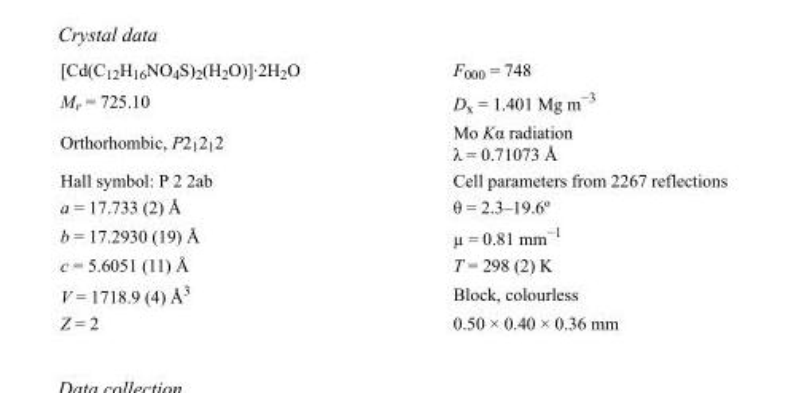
<table><tbody><tr><td>[Cd(C<sub>12</sub>H<sub>16</sub>NO<sub>4</sub>S)<sub>2</sub>(H<sub>2</sub>O)]·2H<sub>2</sub>O</td><td>F000 = 748</td></tr><tr><td>M<sub>r</sub> = 725.10</td><td>D<sub>x</sub> = 1.401 Mg m<sup>−3</sup></td></tr><tr><td>Orthorhombic, P2<sub>1</sub>2<sub>1</sub>2</td><td>Mo Kα radiation λ = 0.71073 Å</td></tr><tr><td>Hall symbol: P 2 2ab</td><td>Cell parameters from 2267 reflections</td></tr><tr><td>a = 17.733 (2) Å</td><td>θ = 2.3–19.6º</td></tr><tr><td>b = 17.2930 (19) Å</td><td>µ = 0.81 mm<sup>−1</sup></td></tr><tr><td>c = 5.6051 (11) Å</td><td>T = 298 (2) K</td></tr><tr><td>V = 1718.9 (4) Å<sup>3</sup></td><td>Block, colourless</td></tr><tr><td>Z = 2</td><td>0.50 × 0.40 × 0.36 mm</td></tr></tbody></table>